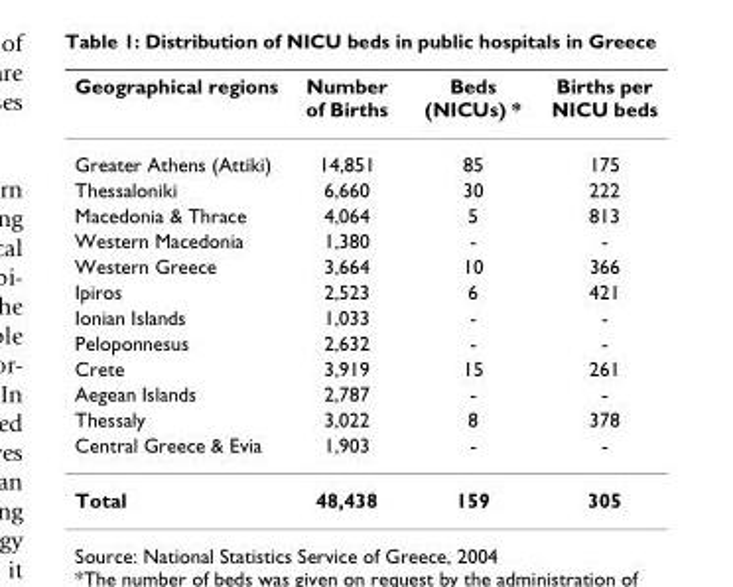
<table><thead><tr><td>Geographical regions</td><td>Number of Births</td><td>Beds (NICUs) *</td><td>Births per NICU beds</td></tr></thead><tbody><tr><td>Greater Athens (Attiki)</td><td>14,851</td><td>85</td><td>175</td></tr><tr><td>Thessaloniki</td><td>6,660</td><td>30</td><td>222</td></tr><tr><td>Macedonia &amp; Thrace</td><td>4,064</td><td>5</td><td>813</td></tr><tr><td>Western Macedonia</td><td>1,380</td><td>-</td><td>-</td></tr><tr><td>Western Greece</td><td>3,664</td><td>10</td><td>366</td></tr><tr><td>Ipiros</td><td>2,523</td><td>6</td><td>421</td></tr><tr><td>Ionian Islands</td><td>1,033</td><td>-</td><td>-</td></tr><tr><td>Peloponnesus</td><td>2,632</td><td>-</td><td>-</td></tr><tr><td>Crete</td><td>3,919</td><td>15</td><td>261</td></tr><tr><td>Aegean Islands</td><td>2,787</td><td>-</td><td>-</td></tr><tr><td>Thessaly</td><td>3,022</td><td>8</td><td>378</td></tr><tr><td>Central Greece &amp; Evia</td><td>1,903</td><td>-</td><td>-</td></tr><tr><td>Total</td><td>48,438</td><td>159</td><td>305</td></tr></tbody></table>